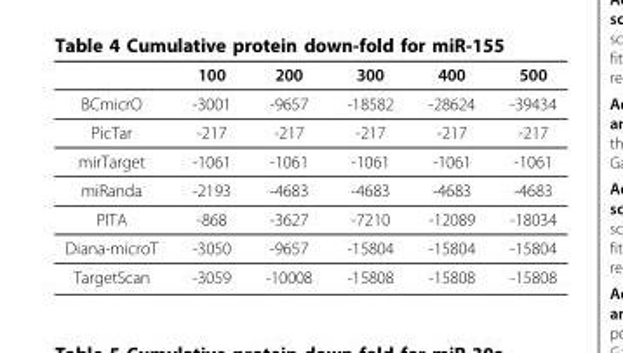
<table><thead><tr><td></td><td>100</td><td>200</td><td>300</td><td>400</td><td>500</td></tr></thead><tbody><tr><td>BCmicrO</td><td>-3001</td><td>-9657</td><td>-18582</td><td>-28624</td><td>-39434</td></tr><tr><td>PicTar</td><td>-217</td><td>-217</td><td>-217</td><td>-217</td><td>-217</td></tr><tr><td>mirTarget</td><td>-1061</td><td>-1061</td><td>-1061</td><td>-1061</td><td>-1061</td></tr><tr><td>miRanda</td><td>-2193</td><td>-4683</td><td>-4683</td><td>-4683</td><td>-4683</td></tr><tr><td>PITA</td><td>-868</td><td>-3627</td><td>-7210</td><td>-12089</td><td>-18034</td></tr><tr><td>Diana-microT</td><td>-3050</td><td>-9657</td><td>-15804</td><td>-15804</td><td>-15804</td></tr><tr><td>TargetScan</td><td>-3059</td><td>-10008</td><td>-15808</td><td>-15808</td><td>-15808</td></tr></tbody></table>